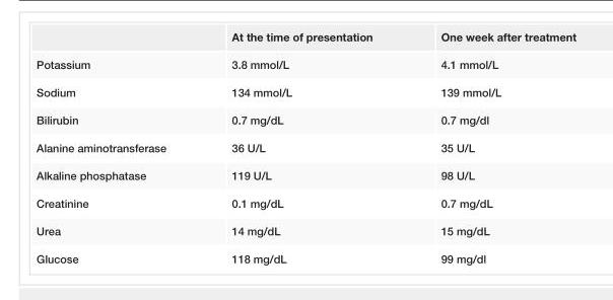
<table><thead><tr><td></td><td>At the time of presentation</td><td>One week after treatment</td></tr></thead><tbody><tr><td>Potassium</td><td>3.8 mmol/L</td><td>4.1 mmol/L</td></tr><tr><td>Sodium</td><td>134 mmol/L</td><td>139 mmol/L</td></tr><tr><td>Bilirubin</td><td>0.7 mg/dL</td><td>0.7 mg/dl</td></tr><tr><td>Alanine aminotransferase</td><td>36 U/L</td><td>35 U/L</td></tr><tr><td>Alkaline phosphatase</td><td>119 U/L</td><td>98 U/L</td></tr><tr><td>Creatinine</td><td>0.1 mg/dL</td><td>0.7 mg/dL</td></tr><tr><td>Urea</td><td>14 mg/dL</td><td>15 mg/dL</td></tr><tr><td>Glucose</td><td>118 mg/dL</td><td>99 mg/dl</td></tr></tbody></table>